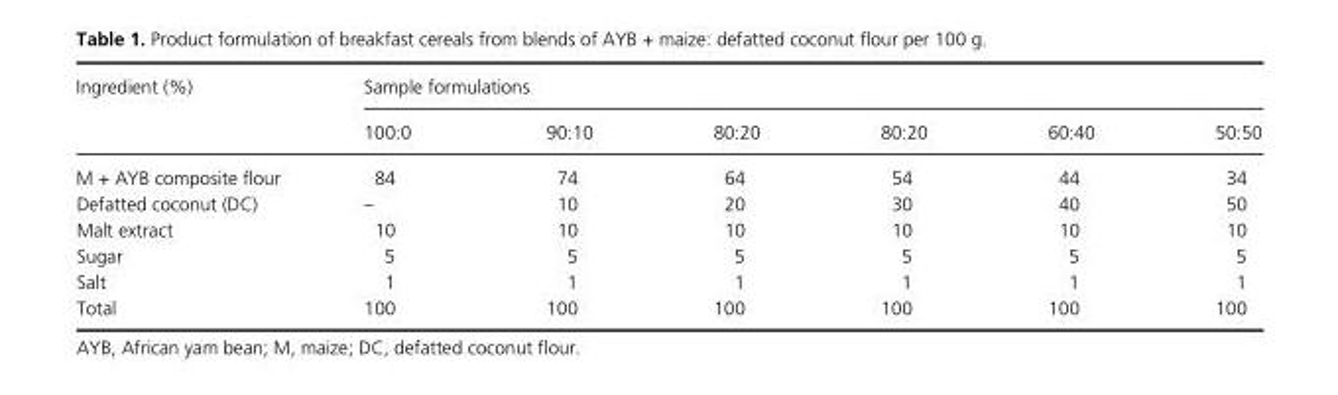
<table><thead><tr><td rowspan="2">Ingredient (%)</td><td colspan="6">Sample formulations</td></tr><tr><td>100:0</td><td>90:10</td><td>80:20</td><td>80:20</td><td>60:40</td><td>50:50</td></tr></thead><tbody><tr><td>M + AYB composite flour</td><td>84</td><td>74</td><td>64</td><td>54</td><td>44</td><td>34</td></tr><tr><td>Defatted coconut (DC)</td><td>–</td><td>10</td><td>20</td><td>30</td><td>40</td><td>50</td></tr><tr><td>Malt extract</td><td>10</td><td>10</td><td>10</td><td>10</td><td>10</td><td>10</td></tr><tr><td>Sugar</td><td>5</td><td>5</td><td>5</td><td>5</td><td>5</td><td>5</td></tr><tr><td>Salt</td><td>1</td><td>1</td><td>1</td><td>1</td><td>1</td><td>1</td></tr><tr><td>Total</td><td>100</td><td>100</td><td>100</td><td>100</td><td>100</td><td>100</td></tr></tbody></table>